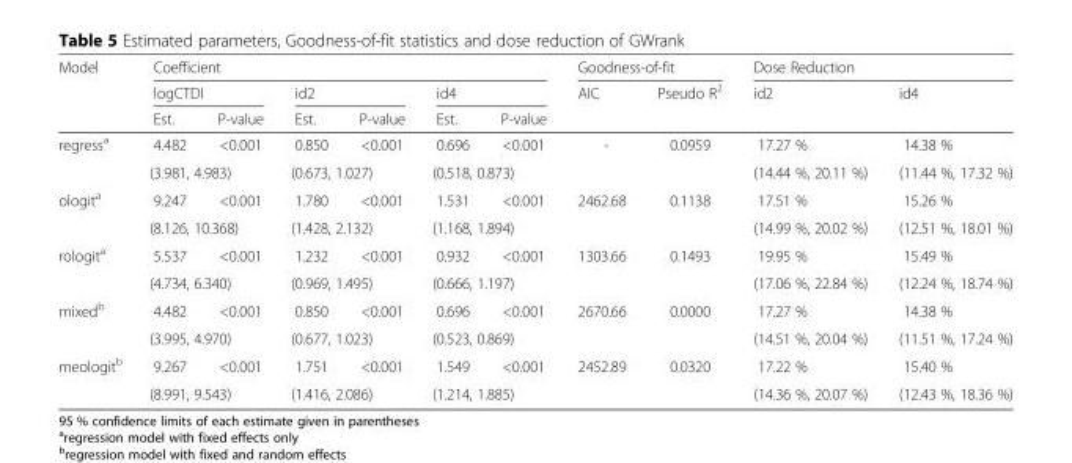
<table><thead><tr><td rowspan="3">Model</td><td colspan="6">Coefficient</td><td colspan="2">Goodness-of-fit</td><td colspan="2">Dose Reduction</td></tr><tr><td colspan="2">logCTDI</td><td colspan="2">id2</td><td colspan="2">id4</td><td rowspan="2">AIC</td><td rowspan="2">Pseudo R<sup>2</sup></td><td rowspan="2">id2</td><td rowspan="2">id4</td></tr><tr><td>Est.</td><td>P-value</td><td>Est.</td><td>P-value</td><td>Est.</td><td>P-value</td></tr></thead><tbody><tr><td rowspan="2">regress<sup>a</sup></td><td>4.482</td><td>&lt;0.001</td><td>0.850</td><td>&lt;0.001</td><td>0.696</td><td>&lt;0.001</td><td rowspan="2">-</td><td rowspan="2">0.0959</td><td>17.27 %</td><td>14.38 %</td></tr><tr><td colspan="2">(3.981, 4.983)</td><td colspan="2">(0.673, 1.027)</td><td colspan="2">(0.518, 0.873)</td><td>(14.44 %, 20.11 %)</td><td>(11.44 %, 17.32 %)</td></tr><tr><td rowspan="2">ologit<sup>a</sup></td><td>9.247</td><td>&lt;0.001</td><td>1.780</td><td>&lt;0.001</td><td>1.531</td><td>&lt;0.001</td><td rowspan="2">2462.68</td><td rowspan="2">0.1138</td><td>17.51 %</td><td>15.26 %</td></tr><tr><td colspan="2">(8.126, 10.368)</td><td colspan="2">(1.428, 2.132)</td><td colspan="2">(1.168, 1.894)</td><td>(14.99 %, 20.02 %)</td><td>(12.51 %, 18.01 %)</td></tr><tr><td rowspan="2">rologit<sup>a</sup></td><td>5.537</td><td>&lt;0.001</td><td>1.232</td><td>&lt;0.001</td><td>0.932</td><td>&lt;0.001</td><td rowspan="2">1303.66</td><td rowspan="2">0.1493</td><td>19.95 %</td><td>15.49 %</td></tr><tr><td colspan="2">(4.734, 6.340)</td><td colspan="2">(0.969, 1.495)</td><td colspan="2">(0.666, 1.197)</td><td>(17.06 %, 22.84 %)</td><td>(12.24 %, 18.74 %)</td></tr><tr><td rowspan="2">mixed<sup>b</sup></td><td>4.482</td><td>&lt;0.001</td><td>0.850</td><td>&lt;0.001</td><td>0.696</td><td>&lt;0.001</td><td rowspan="2">2670.66</td><td rowspan="2">0.0000</td><td>17.27 %</td><td>14.38 %</td></tr><tr><td colspan="2">(3.995, 4.970)</td><td colspan="2">(0.677, 1.023)</td><td colspan="2">(0.523, 0.869)</td><td>(14.51 %, 20.04 %)</td><td>(11.51 %, 17.24 %)</td></tr><tr><td rowspan="2">meologit<sup>b</sup></td><td>9.267</td><td>&lt;0.001</td><td>1.751</td><td>&lt;0.001</td><td>1.549</td><td>&lt;0.001</td><td rowspan="2">2452.89</td><td rowspan="2">0.0320</td><td>17.22 %</td><td>15.40 %</td></tr><tr><td colspan="2">(8.991, 9.543)</td><td colspan="2">(1.416, 2.086)</td><td colspan="2">(1.214, 1.885)</td><td>(14.36 %, 20.07 %)</td><td>(12.43 %, 18.36 %)</td></tr></tbody></table>